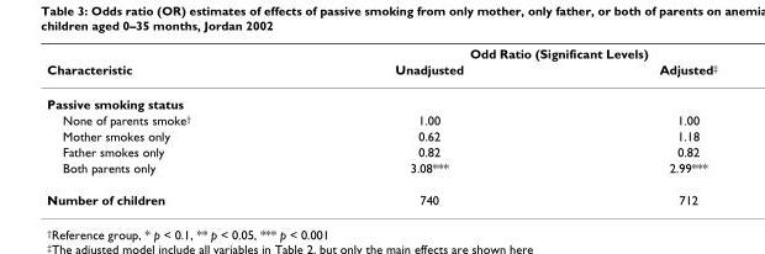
<table><thead><tr><td rowspan="2">Characteristic</td><td colspan="2">Odd Ratio (Significant Levels)</td></tr><tr><td>Unadjusted</td><td>Adjusted‡</td></tr></thead><tbody><tr><td colspan="3">Passive smoking status</td></tr><tr><td>None of parents smoke†</td><td>1.00</td><td>1.00</td></tr><tr><td>Mother smokes only</td><td>0.62</td><td>1.18</td></tr><tr><td>Father smokes only</td><td>0.82</td><td>0.82</td></tr><tr><td>Both parents only</td><td>3.08***</td><td>2.99***</td></tr><tr><td>Number of children</td><td>740</td><td>712</td></tr></tbody></table>